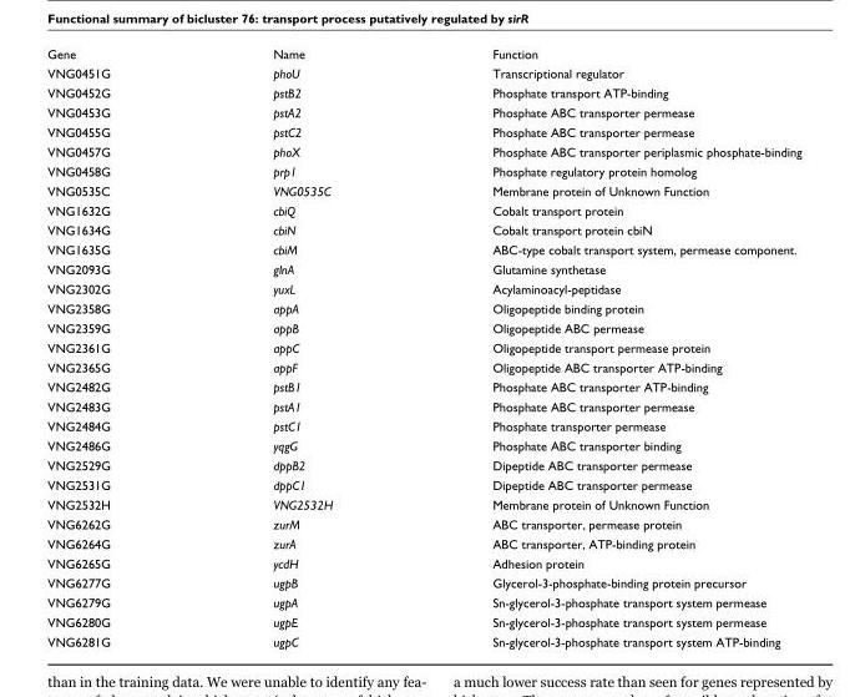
<table><tbody><tr><td>Gene</td><td>Name</td><td>Function</td></tr><tr><td>VNG0451G</td><td>phoU</td><td>Transcriptional regulator</td></tr><tr><td>VNG0452G</td><td>pstB2</td><td>Phosphate transport ATP-binding</td></tr><tr><td>VNG0453G</td><td>pstA2</td><td>Phosphate ABC transporter permease</td></tr><tr><td>VNG0455G</td><td>pstC2</td><td>Phosphate ABC transporter permease</td></tr><tr><td>VNG0457G</td><td>phoX</td><td>Phosphate ABC transporter periplasmic phosphate-binding</td></tr><tr><td>VNG0458G</td><td>prp1</td><td>Phosphate regulatory protein homolog</td></tr><tr><td>VNG0535C</td><td>VNG0535C</td><td>Membrane protein of Unknown Function</td></tr><tr><td>VNG1632G</td><td>cbiQ</td><td>Cobalt transport protein</td></tr><tr><td>VNG1634G</td><td>cbiN</td><td>Cobalt transport protein cbiN</td></tr><tr><td>VNG1635G</td><td>cbiM</td><td>ABC-type cobalt transport system, permease component.</td></tr><tr><td>VNG2093G</td><td>glnA</td><td>Glutamine synthetase</td></tr><tr><td>VNG2302G</td><td>yuxL</td><td>Acylaminoacyl-peptidase</td></tr><tr><td>VNG2358G</td><td>appA</td><td>Oligopeptide binding protein</td></tr><tr><td>VNG2359G</td><td>appB</td><td>Oligopeptide ABC permease</td></tr><tr><td>VNG2361G</td><td>appC</td><td>Oligopeptide transport permease protein</td></tr><tr><td>VNG2365G</td><td>appF</td><td>Oligopeptide ABC transporter ATP-binding</td></tr><tr><td>VNG2482G</td><td>pstB1</td><td>Phosphate ABC transporter ATP-binding</td></tr><tr><td>VNG2483G</td><td>pstA1</td><td>Phosphate ABC transporter permease</td></tr><tr><td>VNG2484G</td><td>pstC1</td><td>Phosphate transporter permease</td></tr><tr><td>VNG2486G</td><td>yqgG</td><td>Phosphate ABC transporter binding</td></tr><tr><td>VNG2529G</td><td>dppB2</td><td>Dipeptide ABC transporter permease</td></tr><tr><td>VNG2531G</td><td>dppC1</td><td>Dipeptide ABC transporter permease</td></tr><tr><td>VNG2532H</td><td>VNG2532H</td><td>Membrane protein of Unknown Function</td></tr><tr><td>VNG6262G</td><td>zurM</td><td>ABC transporter, permease protein</td></tr><tr><td>VNG6264G</td><td>zurA</td><td>ABC transporter, ATP-binding protein</td></tr><tr><td>VNG6265G</td><td>ycdH</td><td>Adhesion protein</td></tr><tr><td>VNG6277G</td><td>ugpB</td><td>Glycerol-3-phosphate-binding protein precursor</td></tr><tr><td>VNG6279G</td><td>ugpA</td><td>Sn-glycerol-3-phosphate transport system permease</td></tr><tr><td>VNG6280G</td><td>ugpE</td><td>Sn-glycerol-3-phosphate transport system permease</td></tr><tr><td>VNG6281G</td><td>ugpC</td><td>Sn-glycerol-3-phosphate transport system ATP-binding</td></tr></tbody></table>